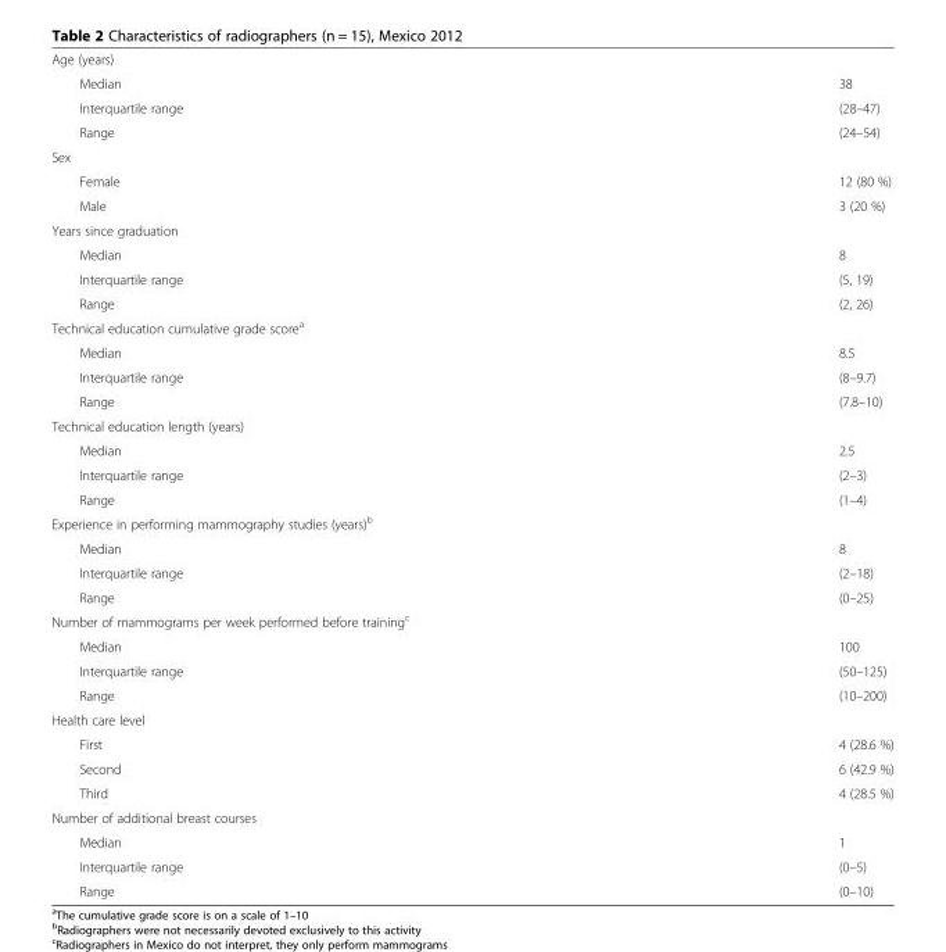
<table><tbody><tr><td colspan="2">Age (years)</td></tr><tr><td>Median</td><td>38</td></tr><tr><td>Interquartile range</td><td>(28–47)</td></tr><tr><td>Range</td><td>(24–54)</td></tr><tr><td colspan="2">Sex</td></tr><tr><td>Female</td><td>12 (80 %)</td></tr><tr><td>Male</td><td>3 (20 %)</td></tr><tr><td colspan="2">Years since graduation</td></tr><tr><td>Median</td><td>8</td></tr><tr><td>Interquartile range</td><td>(5, 19)</td></tr><tr><td>Range</td><td>(2, 26)</td></tr><tr><td colspan="2">Technical education cumulative grade score<sup>a</sup></td></tr><tr><td>Median</td><td>8.5</td></tr><tr><td>Interquartile range</td><td>(8–9.7)</td></tr><tr><td>Range</td><td>(7.8–10)</td></tr><tr><td colspan="2">Technical education length (years)</td></tr><tr><td>Median</td><td>2.5</td></tr><tr><td>Interquartile range</td><td>(2–3)</td></tr><tr><td>Range</td><td>(1–4)</td></tr><tr><td colspan="2">Experience in performing mammography studies (years)<sup>b</sup></td></tr><tr><td>Median</td><td>8</td></tr><tr><td>Interquartile range</td><td>(2–18)</td></tr><tr><td>Range</td><td>(0–25)</td></tr><tr><td colspan="2">Number of mammograms per week performed before training<sup>c</sup></td></tr><tr><td>Median</td><td>100</td></tr><tr><td>Interquartile range</td><td>(50–125)</td></tr><tr><td>Range</td><td>(10–200)</td></tr><tr><td colspan="2">Health care level</td></tr><tr><td>First</td><td>4 (28.6 %)</td></tr><tr><td>Second</td><td>6 (42.9 %)</td></tr><tr><td>Third</td><td>4 (28.5 %)</td></tr><tr><td colspan="2">Number of additional breast courses</td></tr><tr><td>Median</td><td>1</td></tr><tr><td>Interquartile range</td><td>(0–5)</td></tr><tr><td>Range</td><td>(0–10)</td></tr></tbody></table>